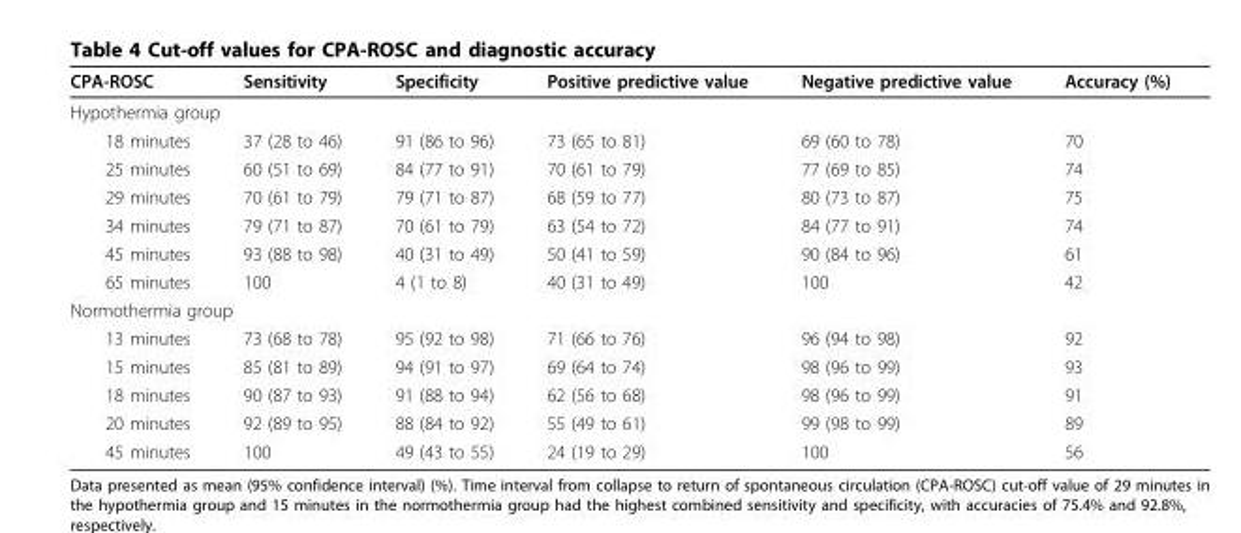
<table><thead><tr><td>CPA-ROSC</td><td>Sensitivity</td><td>Specificity</td><td>Positive predictive value</td><td>Negative predictive value</td><td>Accuracy (%)</td></tr></thead><tbody><tr><td colspan="6">Hypothermia group</td></tr><tr><td>18 minutes</td><td>37 (28 to 46)</td><td>91 (86 to 96)</td><td>73 (65 to 81)</td><td>69 (60 to 78)</td><td>70</td></tr><tr><td>25 minutes</td><td>60 (51 to 69)</td><td>84 (77 to 91)</td><td>70 (61 to 79)</td><td>77 (69 to 85)</td><td>74</td></tr><tr><td>29 minutes</td><td>70 (61 to 79)</td><td>79 (71 to 87)</td><td>68 (59 to 77)</td><td>80 (73 to 87)</td><td>75</td></tr><tr><td>34 minutes</td><td>79 (71 to 87)</td><td>70 (61 to 79)</td><td>63 (54 to 72)</td><td>84 (77 to 91)</td><td>74</td></tr><tr><td>45 minutes</td><td>93 (88 to 98)</td><td>40 (31 to 49)</td><td>50 (41 to 59)</td><td>90 (84 to 96)</td><td>61</td></tr><tr><td>65 minutes</td><td>100</td><td>4 (1 to 8)</td><td>40 (31 to 49)</td><td>100</td><td>42</td></tr><tr><td colspan="6">Normothermia group</td></tr><tr><td>13 minutes</td><td>73 (68 to 78)</td><td>95 (92 to 98)</td><td>71 (66 to 76)</td><td>96 (94 to 98)</td><td>92</td></tr><tr><td>15 minutes</td><td>85 (81 to 89)</td><td>94 (91 to 97)</td><td>69 (64 to 74)</td><td>98 (96 to 99)</td><td>93</td></tr><tr><td>18 minutes</td><td>90 (87 to 93)</td><td>91 (88 to 94)</td><td>62 (56 to 68)</td><td>98 (96 to 99)</td><td>91</td></tr><tr><td>20 minutes</td><td>92 (89 to 95)</td><td>88 (84 to 92)</td><td>55 (49 to 61)</td><td>99 (98 to 99)</td><td>89</td></tr><tr><td>45 minutes</td><td>100</td><td>49 (43 to 55)</td><td>24 (19 to 29)</td><td>100</td><td>56</td></tr></tbody></table>